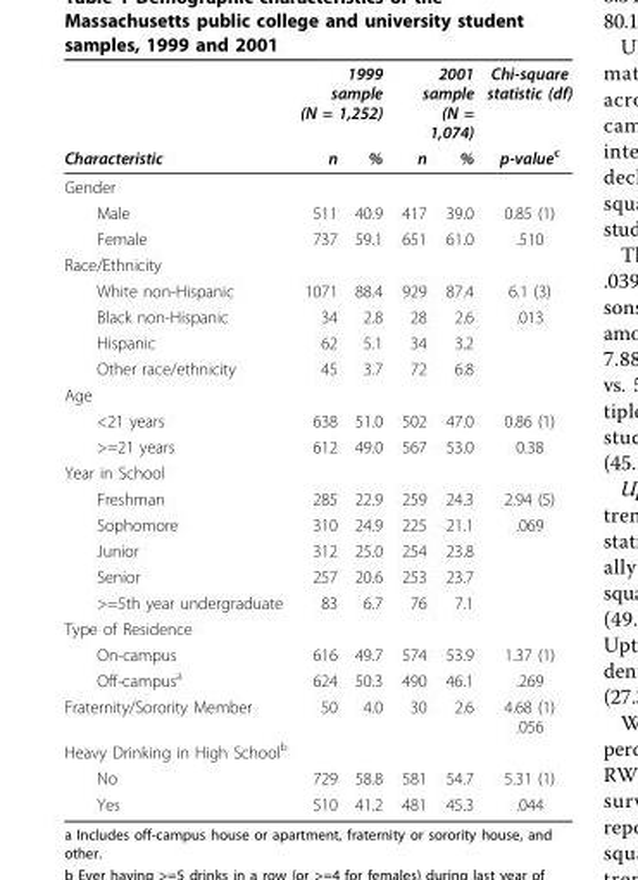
<table><thead><tr><td rowspan="2">Characteristic</td><td colspan="2">1999 sample (N = 1,252)</td><td colspan="2">2001 sample (N = 1,074)</td><td rowspan="2">Chi-square statistic (df) p-value<sup>c</sup></td></tr><tr><td>n</td><td>%</td><td>n</td><td>%</td></tr></thead><tbody><tr><td colspan="6">Gender</td></tr><tr><td>Male</td><td>511</td><td>40.9</td><td>417</td><td>39.0</td><td>0.85 (1)</td></tr><tr><td>Female</td><td>737</td><td>59.1</td><td>651</td><td>61.0</td><td>.510</td></tr><tr><td colspan="6">Race/Ethnicity</td></tr><tr><td>White non-Hispanic</td><td>1071</td><td>88.4</td><td>929</td><td>87.4</td><td>6.1 (3)</td></tr><tr><td>Black non-Hispanic</td><td>34</td><td>2.8</td><td>28</td><td>2.6</td><td>.013</td></tr><tr><td>Hispanic</td><td>62</td><td>5.1</td><td>34</td><td>3.2</td><td></td></tr><tr><td>Other race/ethnicity</td><td>45</td><td>3.7</td><td>72</td><td>6.8</td><td></td></tr><tr><td colspan="6">Age</td></tr><tr><td>&lt;21 years</td><td>638</td><td>51.0</td><td>502</td><td>47.0</td><td>0.86 (1)</td></tr><tr><td>&gt;=21 years</td><td>612</td><td>49.0</td><td>567</td><td>53.0</td><td>0.38</td></tr><tr><td colspan="6">Year in School</td></tr><tr><td>Freshman</td><td>285</td><td>22.9</td><td>259</td><td>24.3</td><td>2.94 (5)</td></tr><tr><td>Sophomore</td><td>310</td><td>24.9</td><td>225</td><td>21.1</td><td>.069</td></tr><tr><td>Junior</td><td>312</td><td>25.0</td><td>254</td><td>23.8</td><td></td></tr><tr><td>Senior</td><td>257</td><td>20.6</td><td>253</td><td>23.7</td><td></td></tr><tr><td>&gt;=5th year undergraduate</td><td>83</td><td>6.7</td><td>76</td><td>7.1</td><td></td></tr><tr><td colspan="6">Type of Residence</td></tr><tr><td>On-campus</td><td>616</td><td>49.7</td><td>574</td><td>53.9</td><td>1.37 (1)</td></tr><tr><td>Off-campus<sup>a</sup></td><td>624</td><td>50.3</td><td>490</td><td>46.1</td><td>.269</td></tr><tr><td>Fraternity/Sorority Member</td><td>50</td><td>4.0</td><td>30</td><td>2.6</td><td>4.68 (1) .056</td></tr><tr><td colspan="6">Heavy Drinking in High School<sup>b</sup></td></tr><tr><td>No</td><td>729</td><td>58.8</td><td>581</td><td>54.7</td><td>5.31 (1)</td></tr><tr><td>Yes</td><td>510</td><td>41.2</td><td>481</td><td>45.3</td><td>.044</td></tr></tbody></table>